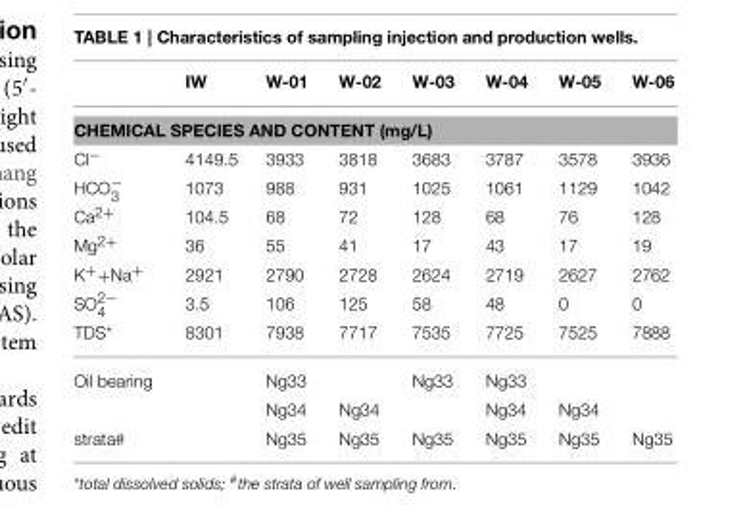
<table><thead><tr><td></td><td>IW</td><td>W-01</td><td>W-02</td><td>W-03</td><td>W-04</td><td>W-05</td><td>W-06</td></tr></thead><tbody><tr><td colspan="8">CHEMICAL SPECIES AND CONTENT (mg/L)</td></tr><tr><td>Cl<sup>−</sup></td><td>4149.5</td><td>3933</td><td>3818</td><td>3683</td><td>3787</td><td>3578</td><td>3936</td></tr><tr><td>HCO<sup>−</sup> <sub>3</sub></td><td>1073</td><td>988</td><td>931</td><td>1025</td><td>1061</td><td>1129</td><td>1042</td></tr><tr><td>Ca<sup>2+</sup></td><td>104.5</td><td>68</td><td>72</td><td>128</td><td>68</td><td>76</td><td>128</td></tr><tr><td>Mg<sup>2+</sup></td><td>36</td><td>55</td><td>41</td><td>17</td><td>43</td><td>17</td><td>19</td></tr><tr><td>K<sup>+</sup>+Na<sup>+</sup></td><td>2921</td><td>2790</td><td>2728</td><td>2624</td><td>2719</td><td>2627</td><td>2762</td></tr><tr><td>SO<sup>2−</sup> <sub>4</sub></td><td>3.5</td><td>106</td><td>125</td><td>58</td><td>48</td><td>0</td><td>0</td></tr><tr><td>TDS*</td><td>8301</td><td>7938</td><td>7717</td><td>7535</td><td>7725</td><td>7525</td><td>7888</td></tr><tr><td rowspan="2">Oil bearing</td><td></td><td>Ng33</td><td></td><td>Ng33</td><td>Ng33</td><td></td><td></td></tr><tr><td></td><td>Ng34</td><td>Ng34</td><td></td><td>Ng34</td><td>Ng34</td><td></td></tr><tr><td>strata#</td><td></td><td>Ng35</td><td>Ng35</td><td>Ng35</td><td>Ng35</td><td>Ng35</td><td>Ng35</td></tr></tbody></table>